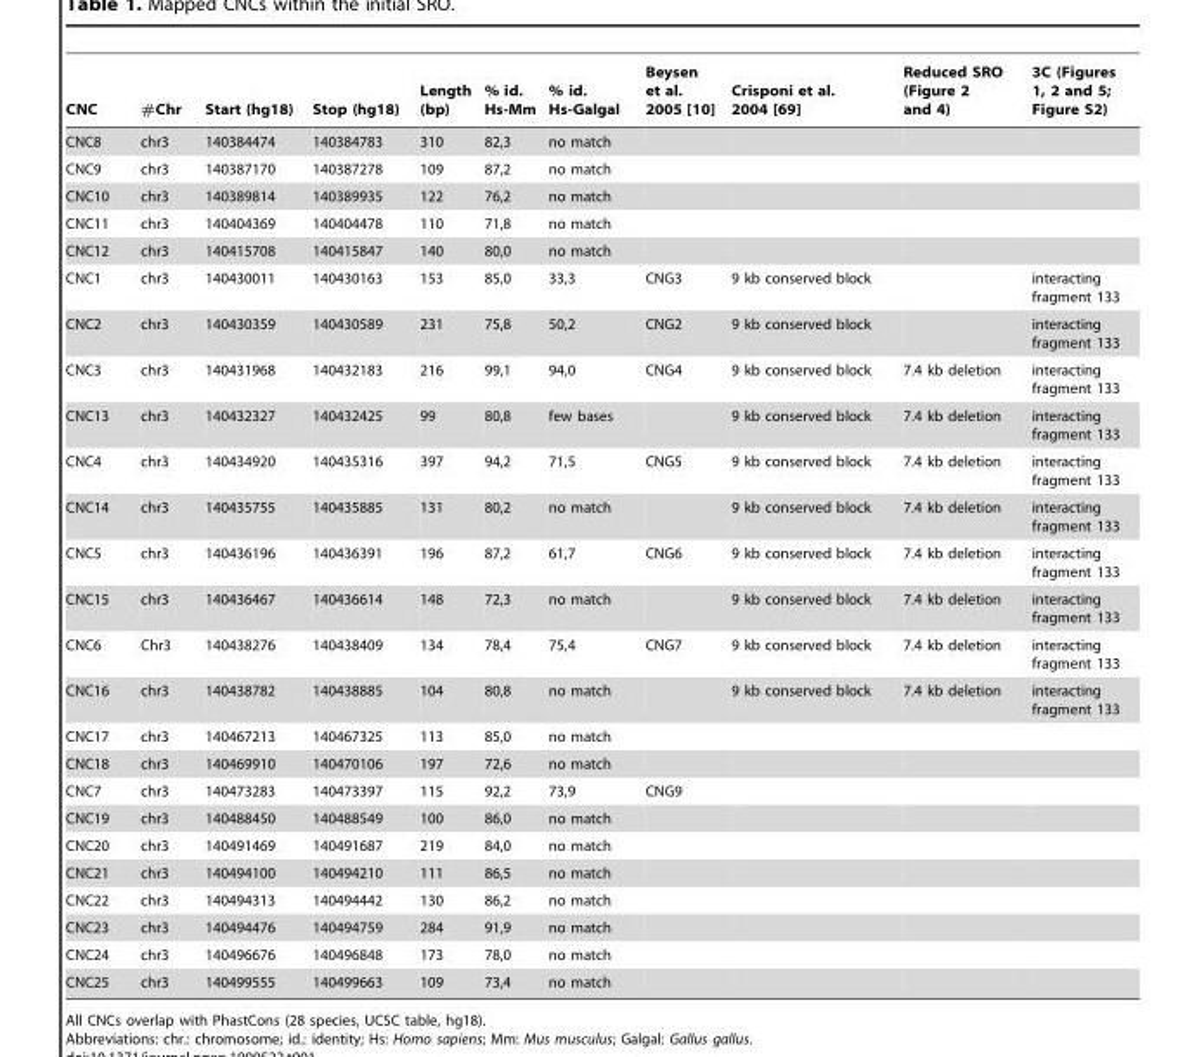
<table><thead><tr><td>CNC</td><td>#Chr</td><td>Start (hg18)</td><td>Stop (hg18)</td><td>Length (bp)</td><td>% id. Hs-Mm</td><td>% id. Hs-Galgal</td><td>Beysen et al. 2005 [10]</td><td>Crisponi et al. 2004 [69]</td><td>Reduced SRO (Figure 2 and 4)</td><td>3C (Figures 1, 2 and 5; Figure S2)</td></tr></thead><tbody><tr><td>CNC8</td><td>chr3</td><td>140384474</td><td>140384783</td><td>310</td><td>82,3</td><td>no match</td><td></td><td></td><td></td><td></td></tr><tr><td>CNC9</td><td>chr3</td><td>140387170</td><td>140387278</td><td>109</td><td>87,2</td><td>no match</td><td></td><td></td><td></td><td></td></tr><tr><td>CNC10</td><td>chr3</td><td>140389814</td><td>140389935</td><td>122</td><td>76,2</td><td>no match</td><td></td><td></td><td></td><td></td></tr><tr><td>CNC11</td><td>chr3</td><td>140404369</td><td>140404478</td><td>110</td><td>71,8</td><td>no match</td><td></td><td></td><td></td><td></td></tr><tr><td>CNC12</td><td>chr3</td><td>140415708</td><td>140415847</td><td>140</td><td>80,0</td><td>no match</td><td></td><td></td><td></td><td></td></tr><tr><td>CNC1</td><td>chr3</td><td>140430011</td><td>140430163</td><td>153</td><td>85,0</td><td>33,3</td><td>CNG3</td><td>9 kb conserved block</td><td></td><td>interacting fragment 133</td></tr><tr><td>CNC2</td><td>chr3</td><td>140430359</td><td>140430589</td><td>231</td><td>75,8</td><td>50,2</td><td>CNG2</td><td>9 kb conserved block</td><td></td><td>interacting fragment 133</td></tr><tr><td>CNC3</td><td>chr3</td><td>140431968</td><td>140432183</td><td>216</td><td>99,1</td><td>94,0</td><td>CNG4</td><td>9 kb conserved block</td><td>7.4 kb deletion</td><td>interacting fragment 133</td></tr><tr><td>CNC13</td><td>chr3</td><td>140432327</td><td>140432425</td><td>99</td><td>80,8</td><td>few bases</td><td></td><td>9 kb conserved block</td><td>7.4 kb deletion</td><td>interacting fragment 133</td></tr><tr><td>CNC4</td><td>chr3</td><td>140434920</td><td>140435316</td><td>397</td><td>94,2</td><td>71,5</td><td>CNG5</td><td>9 kb conserved block</td><td>7.4 kb deletion</td><td>interacting fragment 133</td></tr><tr><td>CNC14</td><td>chr3</td><td>140435755</td><td>140435885</td><td>131</td><td>80,2</td><td>no match</td><td></td><td>9 kb conserved block</td><td>7.4 kb deletion</td><td>interacting fragment 133</td></tr><tr><td>CNC5</td><td>chr3</td><td>140436196</td><td>140436391</td><td>196</td><td>87,2</td><td>61,7</td><td>CNG6</td><td>9 kb conserved block</td><td>7.4 kb deletion</td><td>interacting fragment 133</td></tr><tr><td>CNC15</td><td>chr3</td><td>140436467</td><td>140436614</td><td>148</td><td>72,3</td><td>no match</td><td></td><td>9 kb conserved block</td><td>7.4 kb deletion</td><td>interacting fragment 133</td></tr><tr><td>CNC6</td><td>Chr3</td><td>140438276</td><td>140438409</td><td>134</td><td>78,4</td><td>75,4</td><td>CNG7</td><td>9 kb conserved block</td><td>7.4 kb deletion</td><td>interacting fragment 133</td></tr><tr><td>CNC16</td><td>chr3</td><td>140438782</td><td>140438885</td><td>104</td><td>80,8</td><td>no match</td><td></td><td>9 kb conserved block</td><td>7.4 kb deletion</td><td>interacting fragment 133</td></tr><tr><td>CNC17</td><td>chr3</td><td>140467213</td><td>140467325</td><td>113</td><td>85,0</td><td>no match</td><td></td><td></td><td></td><td></td></tr><tr><td>CNC18</td><td>chr3</td><td>140469910</td><td>140470106</td><td>197</td><td>72,6</td><td>no match</td><td></td><td></td><td></td><td></td></tr><tr><td>CNC7</td><td>chr3</td><td>140473283</td><td>140473397</td><td>115</td><td>92,2</td><td>73,9</td><td>CNG9</td><td></td><td></td><td></td></tr><tr><td>CNC19</td><td>chr3</td><td>140488450</td><td>140488549</td><td>100</td><td>86,0</td><td>no match</td><td></td><td></td><td></td><td></td></tr><tr><td>CNC20</td><td>chr3</td><td>140491469</td><td>140491687</td><td>219</td><td>84,0</td><td>no match</td><td></td><td></td><td></td><td></td></tr><tr><td>CNC21</td><td>chr3</td><td>140494100</td><td>140494210</td><td>111</td><td>86,5</td><td>no match</td><td></td><td></td><td></td><td></td></tr><tr><td>CNC22</td><td>chr3</td><td>140494313</td><td>140494442</td><td>130</td><td>86,2</td><td>no match</td><td></td><td></td><td></td><td></td></tr><tr><td>CNC23</td><td>chr3</td><td>140494476</td><td>140494759</td><td>284</td><td>91,9</td><td>no match</td><td></td><td></td><td></td><td></td></tr><tr><td>CNC24</td><td>chr3</td><td>140496676</td><td>140496848</td><td>173</td><td>78,0</td><td>no match</td><td></td><td></td><td></td><td></td></tr><tr><td>CNC25</td><td>chr3</td><td>140499555</td><td>140499663</td><td>109</td><td>73,4</td><td>no match</td><td></td><td></td><td></td><td></td></tr></tbody></table>